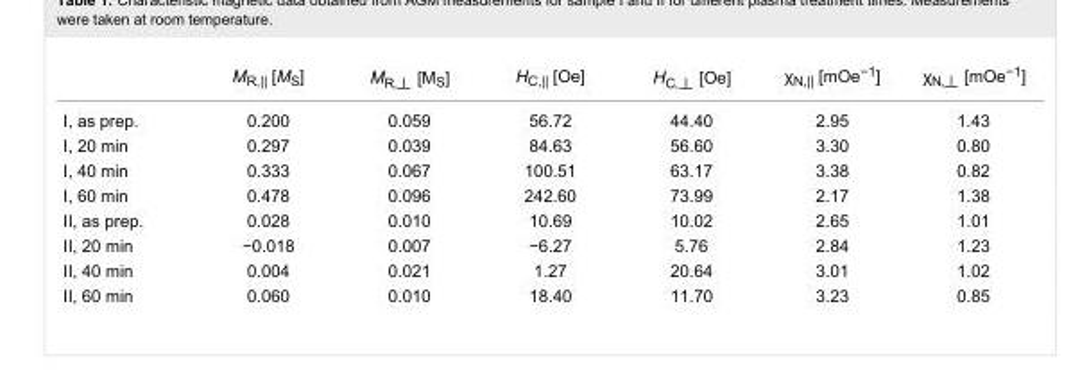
<table><thead><tr><td></td><td>M<sub>R,||</sub> [M<sub>S</sub>]</td><td>[M<sub>S</sub>]</td><td>H<sub>C,||</sub> [Oe]</td><td>[Oe]</td><td>χ<sub>N,||</sub> [mOe<sup>−1</sup>]</td><td>[mOe<sup>−1</sup>]</td></tr></thead><tbody><tr><td>I, as prep.</td><td>0.200</td><td>0.059</td><td>56.72</td><td>44.40</td><td>2.95</td><td>1.43</td></tr><tr><td>I, 20 min</td><td>0.297</td><td>0.039</td><td>84.63</td><td>56.60</td><td>3.30</td><td>0.80</td></tr><tr><td>I, 40 min</td><td>0.333</td><td>0.067</td><td>100.51</td><td>63.17</td><td>3.38</td><td>0.82</td></tr><tr><td>I, 60 min</td><td>0.478</td><td>0.096</td><td>242.60</td><td>73.99</td><td>2.17</td><td>1.38</td></tr><tr><td>II, as prep.</td><td>0.028</td><td>0.010</td><td>10.69</td><td>10.02</td><td>2.65</td><td>1.01</td></tr><tr><td>II, 20 min</td><td>−0.018</td><td>0.007</td><td>−6.27</td><td>5.76</td><td>2.84</td><td>1.23</td></tr><tr><td>II, 40 min</td><td>0.004</td><td>0.021</td><td>1.27</td><td>20.64</td><td>3.01</td><td>1.02</td></tr><tr><td>II, 60 min</td><td>0.060</td><td>0.010</td><td>18.40</td><td>11.70</td><td>3.23</td><td>0.85</td></tr></tbody></table>